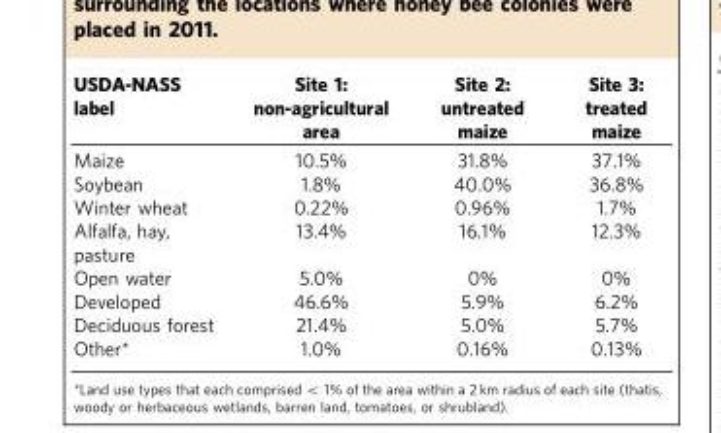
<table><thead><tr><td>USDA-NASS label</td><td>Site 1: non-agricultural area</td><td>Site 2: untreated maize</td><td>Site 3: treated maize</td></tr></thead><tbody><tr><td>Maize</td><td>10.5%</td><td>31.8%</td><td>37.1%</td></tr><tr><td>Soybean</td><td>1.8%</td><td>40.0%</td><td>36.8%</td></tr><tr><td>Winter wheat</td><td>0.22%</td><td>0.96%</td><td>1.7%</td></tr><tr><td>Alfalfa, hay, pasture</td><td>13.4%</td><td>16.1%</td><td>12.3%</td></tr><tr><td>Open water</td><td>5.0%</td><td>0%</td><td>0%</td></tr><tr><td>Developed</td><td>46.6%</td><td>5.9%</td><td>6.2%</td></tr><tr><td>Deciduous forest</td><td>21.4%</td><td>5.0%</td><td>5.7%</td></tr><tr><td>Other*</td><td>1.0%</td><td>0.16%</td><td>0.13%</td></tr></tbody></table>